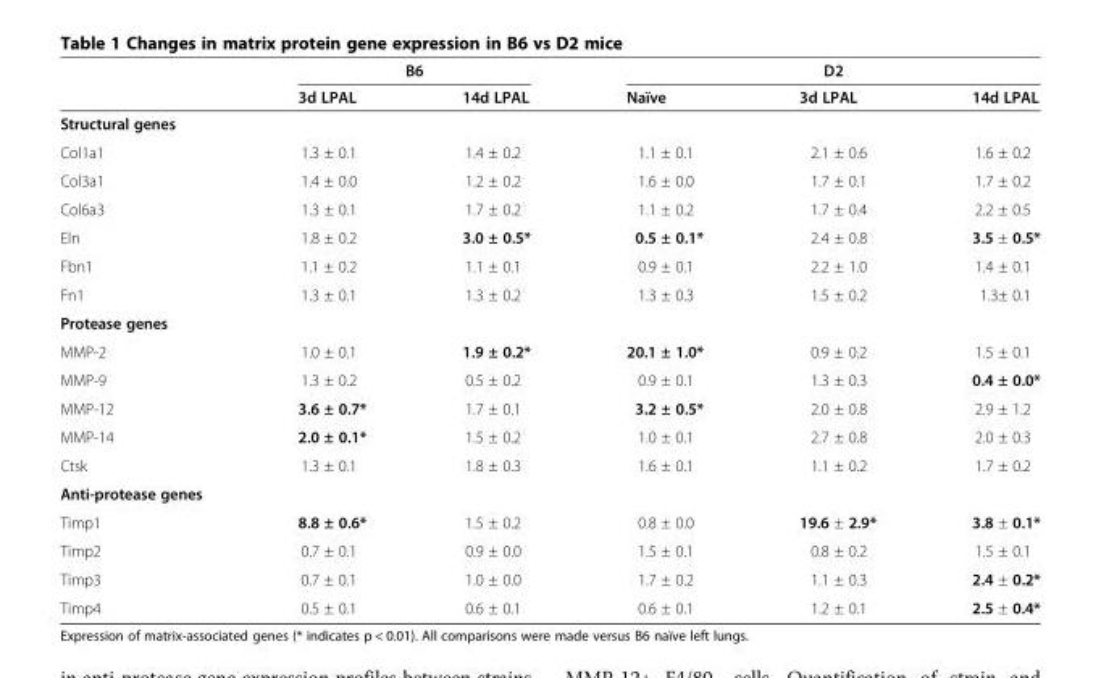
<table><thead><tr><td rowspan="2"></td><td colspan="2">B6</td><td colspan="3">D2</td></tr><tr><td>3d LPAL</td><td>14d LPAL</td><td>Naïve</td><td>3d LPAL</td><td>14d LPAL</td></tr></thead><tbody><tr><td colspan="6">Structural genes</td></tr><tr><td>Col1a1</td><td>1.3 ± 0.1</td><td>1.4 ± 0.2</td><td>1.1 ± 0.1</td><td>2.1 ± 0.6</td><td>1.6 ± 0.2</td></tr><tr><td>Col3a1</td><td>1.4 ± 0.0</td><td>1.2 ± 0.2</td><td>1.6 ± 0.0</td><td>1.7 ± 0.1</td><td>1.7 ± 0.2</td></tr><tr><td>Col6a3</td><td>1.3 ± 0.1</td><td>1.7 ± 0.2</td><td>1.1 ± 0.2</td><td>1.7 ± 0.4</td><td>2.2 ± 0.5</td></tr><tr><td>Eln</td><td>1.8 ± 0.2</td><td>3.0 ± 0.5*</td><td>0.5 ± 0.1*</td><td>2.4 ± 0.8</td><td>3.5 ± 0.5*</td></tr><tr><td>Fbn1</td><td>1.1 ± 0.2</td><td>1.1 ± 0.1</td><td>0.9 ± 0.1</td><td>2.2 ± 1.0</td><td>1.4 ± 0.1</td></tr><tr><td>Fn1</td><td>1.3 ± 0.1</td><td>1.3 ± 0.2</td><td>1.3 ± 0.3</td><td>1.5 ± 0.2</td><td>1.3± 0.1</td></tr><tr><td colspan="6">Protease genes</td></tr><tr><td>MMP-2</td><td>1.0 ± 0.1</td><td>1.9 ± 0.2*</td><td>20.1 ± 1.0*</td><td>0.9 ± 0.2</td><td>1.5 ± 0.1</td></tr><tr><td>MMP-9</td><td>1.3 ± 0.2</td><td>0.5 ± 0.2</td><td>0.9 ± 0.1</td><td>1.3 ± 0.3</td><td>0.4 ± 0.0*</td></tr><tr><td>MMP-12</td><td>3.6 ± 0.7*</td><td>1.7 ± 0.1</td><td>3.2 ± 0.5*</td><td>2.0 ± 0.8</td><td>2.9 ± 1.2</td></tr><tr><td>MMP-14</td><td>2.0 ± 0.1*</td><td>1.5 ± 0.2</td><td>1.0 ± 0.1</td><td>2.7 ± 0.8</td><td>2.0 ± 0.3</td></tr><tr><td>Ctsk</td><td>1.3 ± 0.1</td><td>1.8 ± 0.3</td><td>1.6 ± 0.1</td><td>1.1 ± 0.2</td><td>1.7 ± 0.2</td></tr><tr><td colspan="6">Anti-protease genes</td></tr><tr><td>Timp1</td><td>8.8 ± 0.6*</td><td>1.5 ± 0.2</td><td>0.8 ± 0.0</td><td>19.6 ± 2.9*</td><td>3.8 ± 0.1*</td></tr><tr><td>Timp2</td><td>0.7 ± 0.1</td><td>0.9 ± 0.0</td><td>1.5 ± 0.1</td><td>0.8 ± 0.2</td><td>1.5 ± 0.1</td></tr><tr><td>Timp3</td><td>0.7 ± 0.1</td><td>1.0 ± 0.0</td><td>1.7 ± 0.2</td><td>1.1 ± 0.3</td><td>2.4 ± 0.2*</td></tr><tr><td>Timp4</td><td>0.5 ± 0.1</td><td>0.6 ± 0.1</td><td>0.6 ± 0.1</td><td>1.2 ± 0.1</td><td>2.5 ± 0.4*</td></tr></tbody></table>